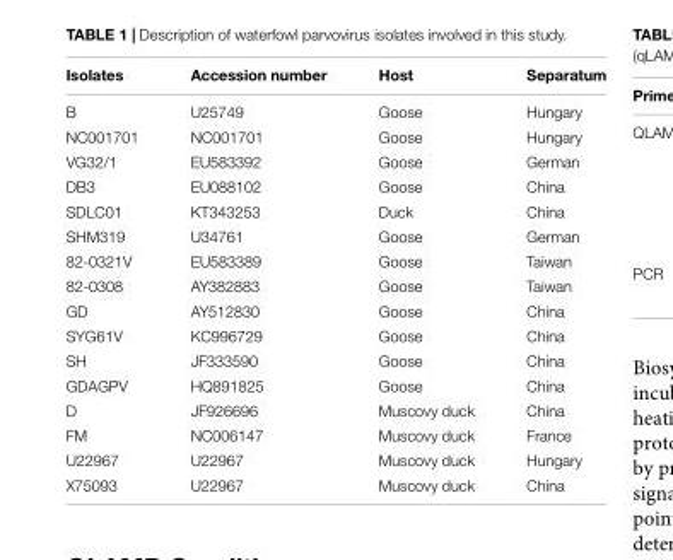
<table><thead><tr><td>Isolates</td><td>Accession number</td><td>Host</td><td>Separatum</td></tr></thead><tbody><tr><td>B</td><td>U25749</td><td>Goose</td><td>Hungary</td></tr><tr><td>NC001701</td><td>NC001701</td><td>Goose</td><td>Hungary</td></tr><tr><td>VG32/1</td><td>EU583392</td><td>Goose</td><td>German</td></tr><tr><td>DB3</td><td>EU088102</td><td>Goose</td><td>China</td></tr><tr><td>SDLC01</td><td>KT343253</td><td>Duck</td><td>China</td></tr><tr><td>SHM319</td><td>U34761</td><td>Goose</td><td>German</td></tr><tr><td>82-0321V</td><td>EU583389</td><td>Goose</td><td>Taiwan</td></tr><tr><td>82-0308</td><td>AY382883</td><td>Goose</td><td>Taiwan</td></tr><tr><td>GD</td><td>AY512830</td><td>Goose</td><td>China</td></tr><tr><td>SYG61V</td><td>KC996729</td><td>Goose</td><td>China</td></tr><tr><td>SH</td><td>JF333590</td><td>Goose</td><td>China</td></tr><tr><td>GDAGPV</td><td>HQ891825</td><td>Goose</td><td>China</td></tr><tr><td>D</td><td>JF926696</td><td>Muscovy duck</td><td>China</td></tr><tr><td>FM</td><td>NC006147</td><td>Muscovy duck</td><td>France</td></tr><tr><td>U22967</td><td>U22967</td><td>Muscovy duck</td><td>Hungary</td></tr><tr><td>X75093</td><td>U22967</td><td>Muscovy duck</td><td>China</td></tr></tbody></table>